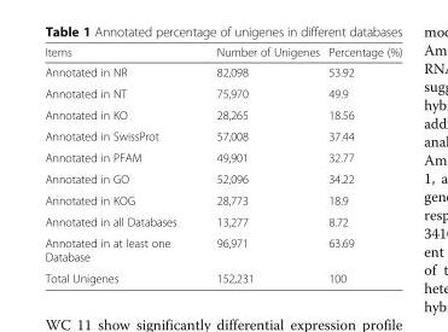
<table><thead><tr><td>Items</td><td>Number of Unigenes</td><td>Percentage (%)</td></tr></thead><tbody><tr><td>Annotated in NR</td><td>82,098</td><td>53.92</td></tr><tr><td>Annotated in NT</td><td>75,970</td><td>49.9</td></tr><tr><td>Annotated in KO</td><td>28,265</td><td>18.56</td></tr><tr><td>Annotated in SwissProt</td><td>57,008</td><td>37.44</td></tr><tr><td>Annotated in PFAM</td><td>49,901</td><td>32.77</td></tr><tr><td>Annotated in GO</td><td>52,096</td><td>34.22</td></tr><tr><td>Annotated in KOG</td><td>28,773</td><td>18.9</td></tr><tr><td>Annotated in all Databases</td><td>13,277</td><td>8.72</td></tr><tr><td>Annotated in at least one Database</td><td>96,971</td><td>63.69</td></tr><tr><td>Total Unigenes</td><td>152,231</td><td>100</td></tr></tbody></table>